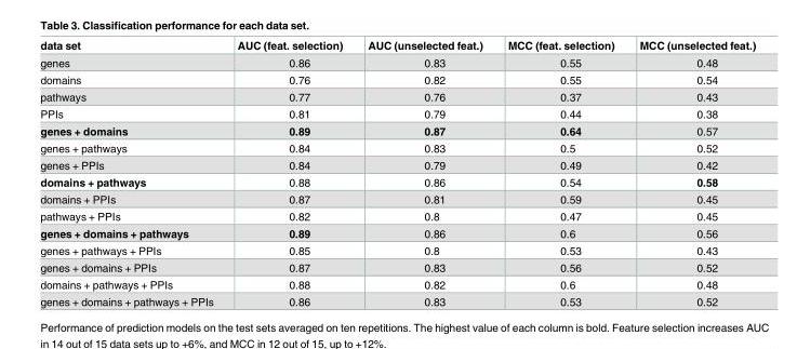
<table><thead><tr><td>data set</td><td>AUC (feat. selection)</td><td>AUC (unselected feat.)</td><td>MCC (feat. selection)</td><td>MCC (unselected feat.)</td></tr></thead><tbody><tr><td>genes</td><td>0.86</td><td>0.83</td><td>0.55</td><td>0.48</td></tr><tr><td>domains</td><td>0.76</td><td>0.82</td><td>0.55</td><td>0.54</td></tr><tr><td>pathways</td><td>0.77</td><td>0.76</td><td>0.37</td><td>0.43</td></tr><tr><td>PPIs</td><td>0.81</td><td>0.79</td><td>0.44</td><td>0.38</td></tr><tr><td>genes + domains</td><td>0.89</td><td>0.87</td><td>0.64</td><td>0.57</td></tr><tr><td>genes + pathways</td><td>0.84</td><td>0.83</td><td>0.5</td><td>0.52</td></tr><tr><td>genes + PPIs</td><td>0.84</td><td>0.79</td><td>0.49</td><td>0.42</td></tr><tr><td>domains + pathways</td><td>0.88</td><td>0.86</td><td>0.54</td><td>0.58</td></tr><tr><td>domains + PPIs</td><td>0.87</td><td>0.81</td><td>0.59</td><td>0.45</td></tr><tr><td>pathways + PPIs</td><td>0.82</td><td>0.8</td><td>0.47</td><td>0.45</td></tr><tr><td>genes + domains + pathways</td><td>0.89</td><td>0.86</td><td>0.6</td><td>0.56</td></tr><tr><td>genes + pathways + PPIs</td><td>0.85</td><td>0.8</td><td>0.53</td><td>0.43</td></tr><tr><td>genes + domains + PPIs</td><td>0.87</td><td>0.83</td><td>0.56</td><td>0.52</td></tr><tr><td>domains + pathways + PPIs</td><td>0.88</td><td>0.82</td><td>0.6</td><td>0.48</td></tr><tr><td>genes + domains + pathways + PPIs</td><td>0.86</td><td>0.83</td><td>0.53</td><td>0.52</td></tr></tbody></table>